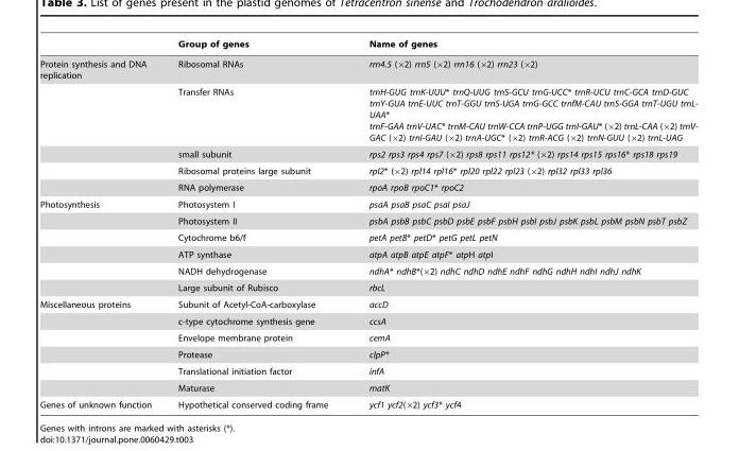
<table><thead><tr><td></td><td>Group of genes</td><td>Name of genes</td></tr></thead><tbody><tr><td rowspan="5">Protein synthesis and DNA replication</td><td>Ribosomal RNAs</td><td>rrn4.5 (×2) rrn5 (×2) rrn16 (×2) rrn23 (×2)</td></tr><tr><td>Transfer RNAs</td><td>trnH-GUG trnK-UUU* trnQ-UUG trnS-GCU trnG-UCC* trnR-UCU trnC-GCA trnD-GUC trnY-GUA trnE-UUC trnT-GGU trnS-UGA trnG-GCC trnfM-CAU trnS-GGA trnT-UGU trnL- UAA* trnF-GAA trnV-UAC* trnM-CAU trnW-CCA trnP-UGG trnI-GAU* (×2) trnL-CAA (×2) trnV- GAC (×2) trnI-GAU (×2) trnA-UGC* (×2) trnR-ACG (×2) trnN-GUU (×2) trnL-UAG</td></tr><tr><td>small subunit</td><td>rps2 rps3 rps4 rps7 (×2) rps8 rps11 rps12* (×2) rps14 rps15 rps16* rps18 rps19</td></tr><tr><td>Ribosomal proteins large subunit</td><td>rpl2* (×2) rpl14 rpl16* rpl20 rpl22 rpl23 (×2) rpl32 rpl33 rpl36</td></tr><tr><td>RNA polymerase</td><td>rpoA rpoB rpoC1* rpoC2</td></tr><tr><td rowspan="6">Photosynthesis</td><td>Photosystem I</td><td>psaA psaB psaC psaI psaJ</td></tr><tr><td>Photosystem II</td><td>psbA psbB psbC psbD psbE psbF psbH psbI psbJ psbK psbL psbM psbN psbT psbZ</td></tr><tr><td>Cytochrome b6/f</td><td>petA petB* petD* petG petL petN</td></tr><tr><td>ATP synthase</td><td>atpA atpB atpE atpF* atpH atpI</td></tr><tr><td>NADH dehydrogenase</td><td>ndhA* ndhB*(×2) ndhC ndhD ndhE ndhF ndhG ndhH ndhI ndhJ ndhK</td></tr><tr><td>Large subunit of Rubisco</td><td>rbcL</td></tr><tr><td rowspan="6">Miscellaneous proteins</td><td>Subunit of Acetyl-CoA-carboxylase</td><td>accD</td></tr><tr><td>c-type cytochrome synthesis gene</td><td>ccsA</td></tr><tr><td>Envelope membrane protein</td><td>cemA</td></tr><tr><td>Protease</td><td>clpP*</td></tr><tr><td>Translational initiation factor</td><td>infA</td></tr><tr><td>Maturase</td><td>matK</td></tr><tr><td>Genes of unknown function</td><td>Hypothetical conserved coding frame</td><td>ycf1 ycf2(×2) ycf3* ycf4</td></tr></tbody></table>